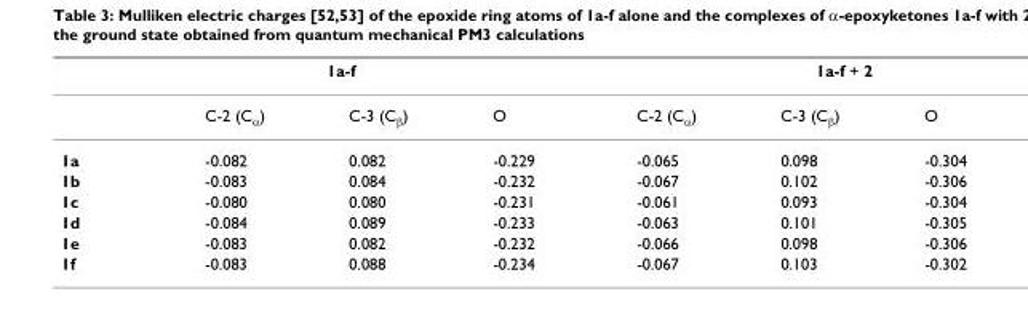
<table><thead><tr><td colspan="4">1a-f</td><td colspan="3">1a-f + 2</td></tr><tr><td></td><td>C-2 (C<sub>α</sub>)</td><td>C-3 (C<sub>β</sub>)</td><td>O</td><td>C-2 (C<sub>α</sub>)</td><td>C-3 (C<sub>β</sub>)</td><td>O</td></tr></thead><tbody><tr><td>1a</td><td>-0.082</td><td>0.082</td><td>-0.229</td><td>-0.065</td><td>0.098</td><td>-0.304</td></tr><tr><td>1b</td><td>-0.083</td><td>0.084</td><td>-0.232</td><td>-0.067</td><td>0.102</td><td>-0.306</td></tr><tr><td>1c</td><td>-0.080</td><td>0.080</td><td>-0.231</td><td>-0.061</td><td>0.093</td><td>-0.304</td></tr><tr><td>1d</td><td>-0.084</td><td>0.089</td><td>-0.233</td><td>-0.063</td><td>0.101</td><td>-0.305</td></tr><tr><td>1e</td><td>-0.083</td><td>0.082</td><td>-0.232</td><td>-0.066</td><td>0.098</td><td>-0.306</td></tr><tr><td>1f</td><td>-0.083</td><td>0.088</td><td>-0.234</td><td>-0.067</td><td>0.103</td><td>-0.302</td></tr></tbody></table>